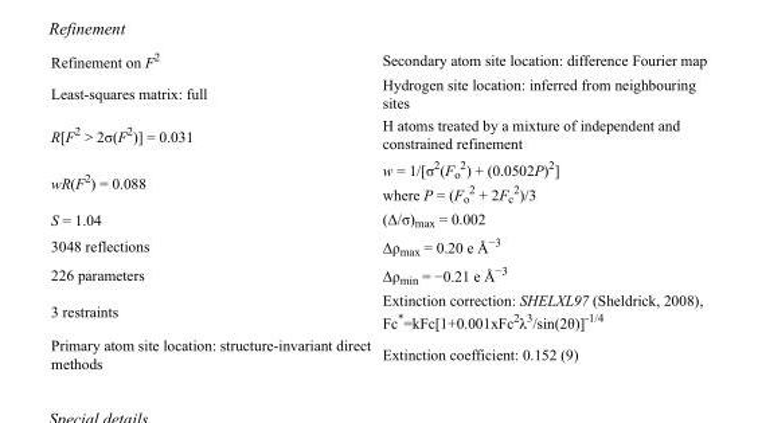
<table><tbody><tr><td>Refinement on F<sup>2</sup></td><td>Secondary atom site location: difference Fourier map</td></tr><tr><td>Least-squares matrix: full</td><td>Hydrogen site location: inferred from neighbouring sites</td></tr><tr><td>R[F<sup>2</sup> &gt; 2σ(F<sup>2</sup>)] = 0.031</td><td>H atoms treated by a mixture of independent and constrained refinement</td></tr><tr><td>wR(F<sup>2</sup>) = 0.088</td><td>w = 1/[σ<sup>2</sup>(F<sub>o</sub> <sup>2</sup>) + (0.0502P)<sup>2</sup>] where P = (F<sub>o</sub> <sup>2</sup> + 2F<sub>c</sub> <sup>2</sup>)/3</td></tr><tr><td>S = 1.04</td><td>(Δ/σ)<sub>max</sub> = 0.002</td></tr><tr><td>3048 reflections</td><td>Δρ<sub>max</sub> = 0.20 e Å<sup>−3</sup></td></tr><tr><td>226 parameters</td><td>Δρ<sub>min</sub> = −0.21 e Å<sup>−3</sup></td></tr><tr><td>3 restraints</td><td>Extinction correction: SHELXL97 (Sheldrick, 2008), Fc*=kFc[1+0.001xFc<sup>2</sup>λ<sup>3</sup>/sin(2θ)]<sup>-1/4</sup></td></tr><tr><td>Primary atom site location: structure-invariant direct methods</td><td>Extinction coefficient: 0.152 (9)</td></tr></tbody></table>